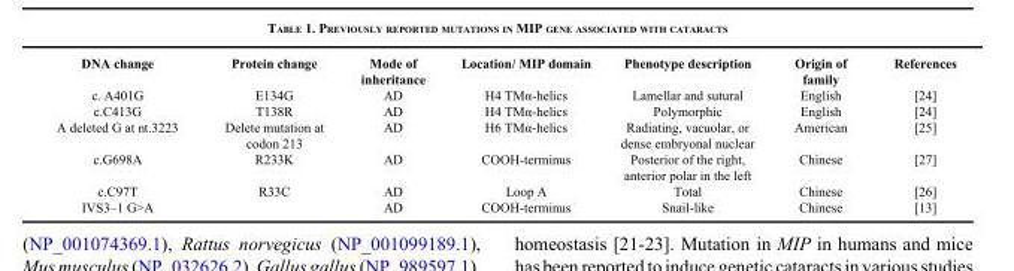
<table><thead><tr><td>DNA change</td><td>Protein change</td><td>Mode of inheritance</td><td>Location/ MIP domain</td><td>Phenotype description</td><td>Origin of family</td><td>References</td></tr></thead><tbody><tr><td>c. A401G</td><td>E134G</td><td>AD</td><td>H4 TMα-helics</td><td>Lamellar and sutural</td><td>English</td><td>[24]</td></tr><tr><td>c.C413G</td><td>T138R</td><td>AD</td><td>H4 TMα-helics</td><td>Polymorphic</td><td>English</td><td>[24]</td></tr><tr><td>A deleted G at nt.3223</td><td>Delete mutation at codon 213</td><td>AD</td><td>H6 TMα-helics</td><td>Radiating, vacuolar, or dense embryonal nuclear</td><td>American</td><td>[25]</td></tr><tr><td>c.G698A</td><td>R233K</td><td>AD</td><td>COOH-terminus</td><td>Posterior of the right, anterior polar in the left</td><td>Chinese</td><td>[27]</td></tr><tr><td>c.C97T</td><td>R33C</td><td>AD</td><td>Loop A</td><td>Total</td><td>Chinese</td><td>[26]</td></tr><tr><td>IVS3–1 G&gt;A</td><td></td><td>AD</td><td>COOH-terminus</td><td>Snail-like</td><td>Chinese</td><td>[13]</td></tr></tbody></table>